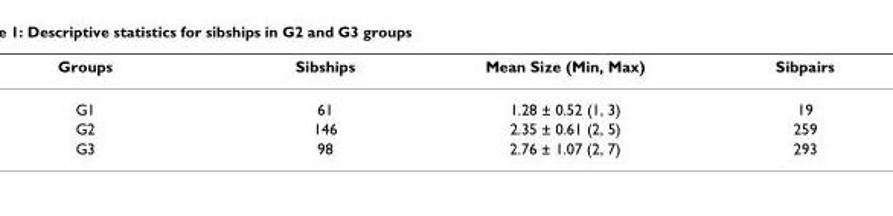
<table><thead><tr><td>Groups</td><td>Sibships</td><td>Mean Size (Min, Max)</td><td>Sibpairs</td></tr></thead><tbody><tr><td>G1</td><td>61</td><td>1.28 ± 0.52 (1, 3)</td><td>19</td></tr><tr><td>G2</td><td>146</td><td>2.35 ± 0.61 (2, 5)</td><td>259</td></tr><tr><td>G3</td><td>98</td><td>2.76 ± 1.07 (2, 7)</td><td>293</td></tr></tbody></table>